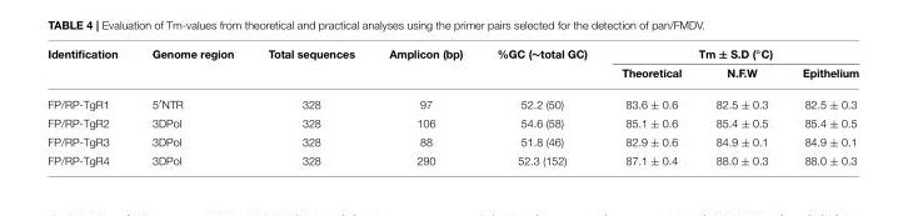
<table><thead><tr><td rowspan="2">Identification</td><td rowspan="2">Genome region</td><td rowspan="2">Total sequences</td><td rowspan="2">Amplicon (bp)</td><td rowspan="2">%GC (∼total GC)</td><td colspan="3">Tm ± S.D (◦C)</td></tr><tr><td>Theoretical</td><td>N.F.W</td><td>Epithelium</td></tr></thead><tbody><tr><td>FP/RP-TgR1</td><td>5′NTR</td><td>328</td><td>97</td><td>52.2 (50)</td><td>83.6 ± 0.6</td><td>82.5 ± 0.3</td><td>82.5 ± 0.3</td></tr><tr><td>FP/RP-TgR2</td><td>3DPol</td><td>328</td><td>106</td><td>54.6 (58)</td><td>85.1 ± 0.6</td><td>85.4 ± 0.5</td><td>85.4 ± 0.5</td></tr><tr><td>FP/RP-TgR3</td><td>3DPol</td><td>328</td><td>88</td><td>51.8 (46)</td><td>82.9 ± 0.6</td><td>84.9 ± 0.1</td><td>84.9 ± 0.1</td></tr><tr><td>FP/RP-TgR4</td><td>3DPol</td><td>328</td><td>290</td><td>52.3 (152)</td><td>87.1 ± 0.4</td><td>88.0 ± 0.3</td><td>88.0 ± 0.3</td></tr></tbody></table>